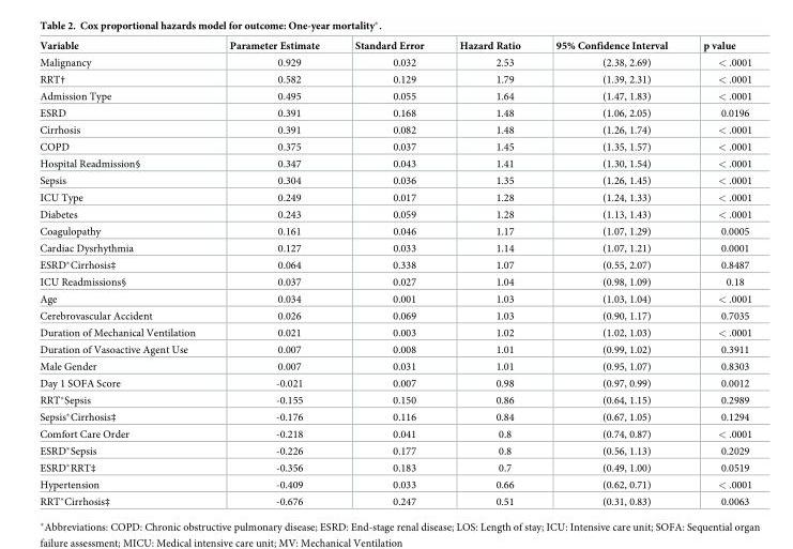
<table><thead><tr><td>Variable</td><td>Parameter Estimate</td><td>Standard Error</td><td>Hazard Ratio</td><td>95% Confidence Interval</td><td>p value</td></tr></thead><tbody><tr><td>Malignancy</td><td>0.929</td><td>0.032</td><td>2.53</td><td>(2.38, 2.69)</td><td>&lt; .0001</td></tr><tr><td>RRT†</td><td>0.582</td><td>0.129</td><td>1.79</td><td>(1.39, 2.31)</td><td>&lt; .0001</td></tr><tr><td>Admission Type</td><td>0.495</td><td>0.055</td><td>1.64</td><td>(1.47, 1.83)</td><td>&lt; .0001</td></tr><tr><td>ESRD</td><td>0.391</td><td>0.168</td><td>1.48</td><td>(1.06, 2.05)</td><td>0.0196</td></tr><tr><td>Cirrhosis</td><td>0.391</td><td>0.082</td><td>1.48</td><td>(1.26, 1.74)</td><td>&lt; .0001</td></tr><tr><td>COPD</td><td>0.375</td><td>0.037</td><td>1.45</td><td>(1.35, 1.57)</td><td>&lt; .0001</td></tr><tr><td>Hospital Readmission§</td><td>0.347</td><td>0.043</td><td>1.41</td><td>(1.30, 1.54)</td><td>&lt; .0001</td></tr><tr><td>Sepsis</td><td>0.304</td><td>0.036</td><td>1.35</td><td>(1.26, 1.45)</td><td>&lt; .0001</td></tr><tr><td>ICU Type</td><td>0.249</td><td>0.017</td><td>1.28</td><td>(1.24, 1.33)</td><td>&lt; .0001</td></tr><tr><td>Diabetes</td><td>0.243</td><td>0.059</td><td>1.28</td><td>(1.13, 1.43)</td><td>&lt; .0001</td></tr><tr><td>Coagulopathy</td><td>0.161</td><td>0.046</td><td>1.17</td><td>(1.07, 1.29)</td><td>0.0005</td></tr><tr><td>Cardiac Dysrhythmia</td><td>0.127</td><td>0.033</td><td>1.14</td><td>(1.07, 1.21)</td><td>0.0001</td></tr><tr><td>ESRD*Cirrhosis‡</td><td>0.064</td><td>0.338</td><td>1.07</td><td>(0.55, 2.07)</td><td>0.8487</td></tr><tr><td>ICU Readmissions§</td><td>0.037</td><td>0.027</td><td>1.04</td><td>(0.98, 1.09)</td><td>0.18</td></tr><tr><td>Age</td><td>0.034</td><td>0.001</td><td>1.03</td><td>(1.03, 1.04)</td><td>&lt; .0001</td></tr><tr><td>Cerebrovascular Accident</td><td>0.026</td><td>0.069</td><td>1.03</td><td>(0.90, 1.17)</td><td>0.7035</td></tr><tr><td>Duration of Mechanical Ventilation</td><td>0.021</td><td>0.003</td><td>1.02</td><td>(1.02, 1.03)</td><td>&lt; .0001</td></tr><tr><td>Duration of Vasoactive Agent Use</td><td>0.007</td><td>0.008</td><td>1.01</td><td>(0.99, 1.02)</td><td>0.3911</td></tr><tr><td>Male Gender</td><td>0.007</td><td>0.031</td><td>1.01</td><td>(0.95, 1.07)</td><td>0.8303</td></tr><tr><td>Day 1 SOFA Score</td><td>-0.021</td><td>0.007</td><td>0.98</td><td>(0.97, 0.99)</td><td>0.0012</td></tr><tr><td>RRT*Sepsis</td><td>-0.155</td><td>0.150</td><td>0.86</td><td>(0.64, 1.15)</td><td>0.2989</td></tr><tr><td>Sepsis*Cirrhosis‡</td><td>-0.176</td><td>0.116</td><td>0.84</td><td>(0.67, 1.05)</td><td>0.1294</td></tr><tr><td>Comfort Care Order</td><td>-0.218</td><td>0.041</td><td>0.8</td><td>(0.74, 0.87)</td><td>&lt; .0001</td></tr><tr><td>ESRD*Sepsis</td><td>-0.226</td><td>0.177</td><td>0.8</td><td>(0.56, 1.13)</td><td>0.2029</td></tr><tr><td>ESRD*RRT‡</td><td>-0.356</td><td>0.183</td><td>0.7</td><td>(0.49, 1.00)</td><td>0.0519</td></tr><tr><td>Hypertension</td><td>-0.409</td><td>0.033</td><td>0.66</td><td>(0.62, 0.71)</td><td>&lt; .0001</td></tr><tr><td>RRT*Cirrhosis‡</td><td>-0.676</td><td>0.247</td><td>0.51</td><td>(0.31, 0.83)</td><td>0.0063</td></tr></tbody></table>